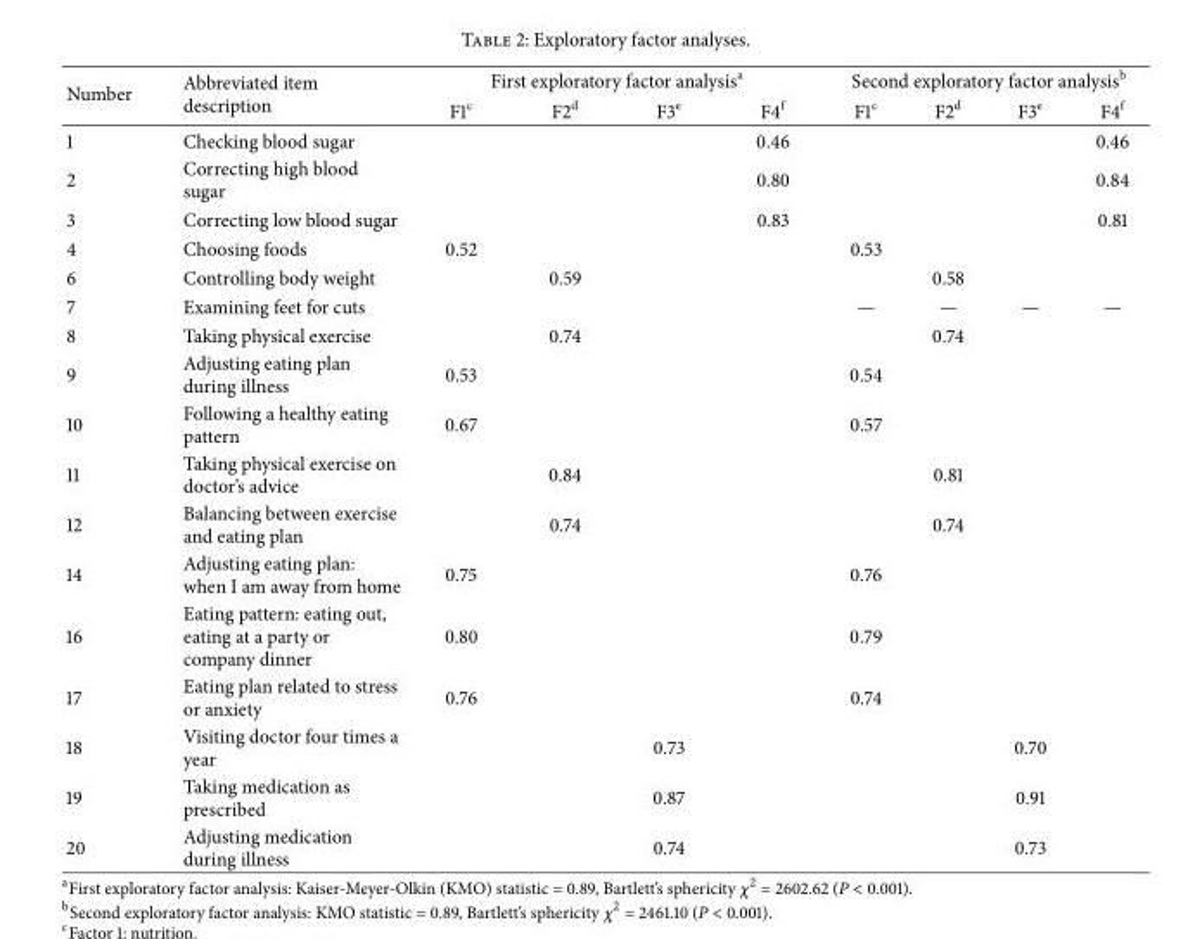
<table><thead><tr><td rowspan="2">Number</td><td rowspan="2">Abbreviated item description</td><td colspan="4">First exploratory factor analysis<sup>a</sup></td><td colspan="4">Second exploratory factor analysis<sup>b</sup></td></tr><tr><td>F1<sup>c</sup></td><td>F2<sup>d</sup></td><td>F3<sup>e</sup></td><td>F4<sup>f</sup></td><td>F1<sup>c</sup></td><td>F2<sup>d</sup></td><td>F3<sup>e</sup></td><td>F4<sup>f</sup></td></tr></thead><tbody><tr><td>1</td><td>Checking blood sugar</td><td></td><td></td><td></td><td>0.46</td><td></td><td></td><td></td><td>0.46</td></tr><tr><td>2</td><td>Correcting high blood sugar</td><td></td><td></td><td></td><td>0.80</td><td></td><td></td><td></td><td>0.84</td></tr><tr><td>3</td><td>Correcting low blood sugar</td><td></td><td></td><td></td><td>0.83</td><td></td><td></td><td></td><td>0.81</td></tr><tr><td>4</td><td>Choosing foods</td><td>0.52</td><td></td><td></td><td></td><td>0.53</td><td></td><td></td><td></td></tr><tr><td>6</td><td>Controlling body weight</td><td></td><td>0.59</td><td></td><td></td><td></td><td>0.58</td><td></td><td></td></tr><tr><td>7</td><td>Examining feet for cuts</td><td></td><td></td><td></td><td></td><td>—</td><td>—</td><td>—</td><td>—</td></tr><tr><td>8</td><td>Taking physical exercise</td><td></td><td>0.74</td><td></td><td></td><td></td><td>0.74</td><td></td><td></td></tr><tr><td>9</td><td>Adjusting eating plan during illness</td><td>0.53</td><td></td><td></td><td></td><td>0.54</td><td></td><td></td><td></td></tr><tr><td>10</td><td>Following a healthy eating pattern</td><td>0.67</td><td></td><td></td><td></td><td>0.57</td><td></td><td></td><td></td></tr><tr><td>11</td><td>Taking physical exercise on doctor’s advice</td><td></td><td>0.84</td><td></td><td></td><td></td><td>0.81</td><td></td><td></td></tr><tr><td>12</td><td>Balancing between exercise and eating plan</td><td></td><td>0.74</td><td></td><td></td><td></td><td>0.74</td><td></td><td></td></tr><tr><td>14</td><td>Adjusting eating plan: when I am away from home</td><td>0.75</td><td></td><td></td><td></td><td>0.76</td><td></td><td></td><td></td></tr><tr><td>16</td><td>Eating pattern: eating out, eating at a party or company dinner</td><td>0.80</td><td></td><td></td><td></td><td>0.79</td><td></td><td></td><td></td></tr><tr><td>17</td><td>Eating plan related to stress or anxiety</td><td>0.76</td><td></td><td></td><td></td><td>0.74</td><td></td><td></td><td></td></tr><tr><td>18</td><td>Visiting doctor four times a year</td><td></td><td></td><td>0.73</td><td></td><td></td><td></td><td>0.70</td><td></td></tr><tr><td>19</td><td>Taking medication as prescribed</td><td></td><td></td><td>0.87</td><td></td><td></td><td></td><td>0.91</td><td></td></tr><tr><td>20</td><td>Adjusting medication during illness</td><td></td><td></td><td>0.74</td><td></td><td></td><td></td><td>0.73</td><td></td></tr></tbody></table>